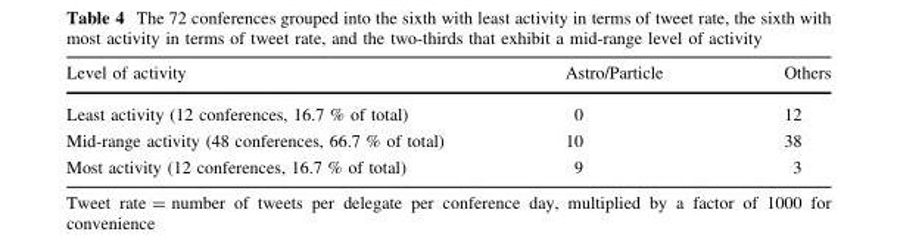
<table><thead><tr><td>Level of activity</td><td>Astro/Particle</td><td>Others</td></tr></thead><tbody><tr><td>Least activity (12 conferences, 16.7 % of total)</td><td>0</td><td>12</td></tr><tr><td>Mid-range activity (48 conferences, 66.7 % of total)</td><td>10</td><td>38</td></tr><tr><td>Most activity (12 conferences, 16.7 % of total)</td><td>9</td><td>3</td></tr></tbody></table>